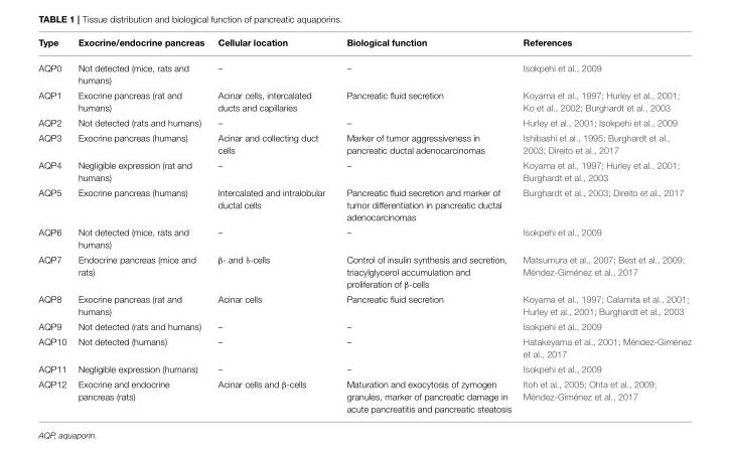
<table><thead><tr><td>Type</td><td>Exocrine/endocrine pancreas</td><td>Cellular location</td><td>Biological function</td><td>References</td></tr></thead><tbody><tr><td>AQP0</td><td>Not detected (mice, rats and humans)</td><td>–</td><td>–</td><td>Isokpehi et al., 2009</td></tr><tr><td>AQP1</td><td>Exocrine pancreas (rat and humans)</td><td>Acinar cells, intercalated ducts and capillaries</td><td>Pancreatic fluid secretion</td><td>Koyama et al., 1997; Hurley et al., 2001; Ko et al., 2002; Burghardt et al., 2003</td></tr><tr><td>AQP2</td><td>Not detected (rats and humans)</td><td>–</td><td>–</td><td>Hurley et al., 2001; Isokpehi et al., 2009</td></tr><tr><td>AQP3</td><td>Exocrine pancreas (humans)</td><td>Acinar and collecting duct cells</td><td>Marker of tumor aggressiveness in pancreatic ductal adenocarcinomas</td><td>Ishibashi et al., 1995; Burghardt et al., 2003; Direito et al., 2017</td></tr><tr><td>AQP4</td><td>Negligible expression (rat and humans)</td><td>–</td><td>–</td><td>Koyama et al., 1997; Hurley et al., 2001; Burghardt et al., 2003</td></tr><tr><td>AQP5</td><td>Exocrine pancreas (humans)</td><td>Intercalated and intralobular ductal cells</td><td>Pancreatic fluid secretion and marker of tumor differentiation in pancreatic ductal adenocarcinomas</td><td>Burghardt et al., 2003; Direito et al., 2017</td></tr><tr><td>AQP6</td><td>Not detected (mice, rats and humans)</td><td>–</td><td>–</td><td>Isokpehi et al., 2009</td></tr><tr><td>AQP7</td><td>Endocrine pancreas (mice and rats)</td><td>β- and δ-cells</td><td>Control of insulin synthesis and secretion, triacylglycerol accumulation and proliferation of β-cells</td><td>Matsumura et al., 2007; Best et al., 2009; Méndez-Giménez et al., 2017</td></tr><tr><td>AQP8</td><td>Exocrine pancreas (rat and humans)</td><td>Acinar cells</td><td>Pancreatic fluid secretion</td><td>Koyama et al., 1997; Calamita et al., 2001; Hurley et al., 2001; Burghardt et al., 2003</td></tr><tr><td>AQP9</td><td>Not detected (rats and humans)</td><td>–</td><td>–</td><td>Isokpehi et al., 2009</td></tr><tr><td>AQP10</td><td>Not detected (humans)</td><td>–</td><td>–</td><td>Hatakeyama et al., 2001; Méndez-Giménez et al., 2017</td></tr><tr><td>AQP11</td><td>Negligible expression (humans)</td><td>–</td><td>–</td><td>Isokpehi et al., 2009</td></tr><tr><td>AQP12</td><td>Exocrine and endocrine pancreas (rats)</td><td>Acinar cells and β-cells</td><td>Maturation and exocytosis of zymogen granules, marker of pancreatic damage in acute pancreatitis and pancreatic steatosis</td><td>Itoh et al., 2005; Ohta et al., 2009; Méndez-Giménez et al., 2017</td></tr></tbody></table>